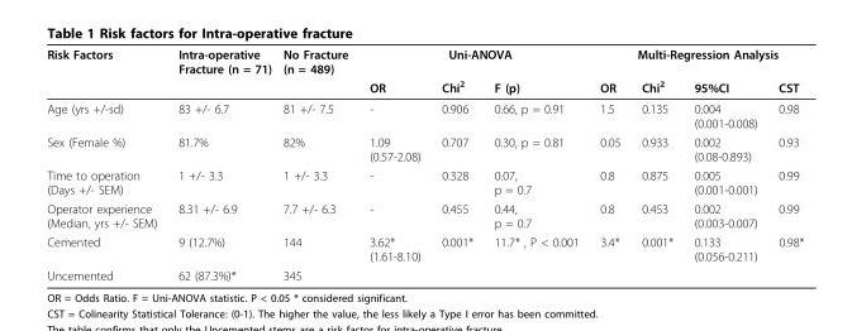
<table><thead><tr><td rowspan="2">Risk Factors</td><td rowspan="2">Intra-operative Fracture (n = 71)</td><td rowspan="2">No Fracture (n = 489)</td><td colspan="3">Uni-ANOVA</td><td colspan="4">Multi-Regression Analysis</td></tr><tr><td>OR</td><td>Chi<sup>2</sup></td><td>F (p)</td><td>OR</td><td>Chi<sup>2</sup></td><td>95%CI</td><td>CST</td></tr></thead><tbody><tr><td>Age (yrs +/-sd)</td><td>83 +/- 6.7</td><td>81 +/- 7.5</td><td>-</td><td>0.906</td><td>0.66, p = 0.91</td><td>1.5</td><td>0.135</td><td>0.004 (0.001-0.008)</td><td>0.98</td></tr><tr><td>Sex (Female %)</td><td>81.7%</td><td>82%</td><td>1.09 (0.57-2.08)</td><td>0.707</td><td>0.30, p = 0.81</td><td>0.05</td><td>0.933</td><td>0.002 (0.08-0.893)</td><td>0.93</td></tr><tr><td>Time to operation (Days +/- SEM)</td><td>1 +/- 3.3</td><td>1 +/- 3.3</td><td>-</td><td>0.328</td><td>0.07, p = 0.7</td><td>0.8</td><td>0.875</td><td>0.005 (0.001-0.001)</td><td>0.99</td></tr><tr><td>Operator experience (Median, yrs +/- SEM)</td><td>8.31 +/- 6.9</td><td>7.7 +/- 6.3</td><td>-</td><td>0.455</td><td>0.44, p = 0.7</td><td>0.8</td><td>0.453</td><td>0.002 (0.003-0.007)</td><td>0.99</td></tr><tr><td>Cemented</td><td>9 (12.7%)</td><td>144</td><td>3.62* (1.61-8.10)</td><td>0.001*</td><td>11.7* , P &lt; 0.001</td><td>3.4*</td><td>0.001*</td><td>0.133 (0.056-0.211)</td><td>0.98*</td></tr><tr><td>Uncemented</td><td>62 (87.3%)*</td><td>345</td><td></td><td></td><td></td><td></td><td></td><td></td><td></td></tr></tbody></table>